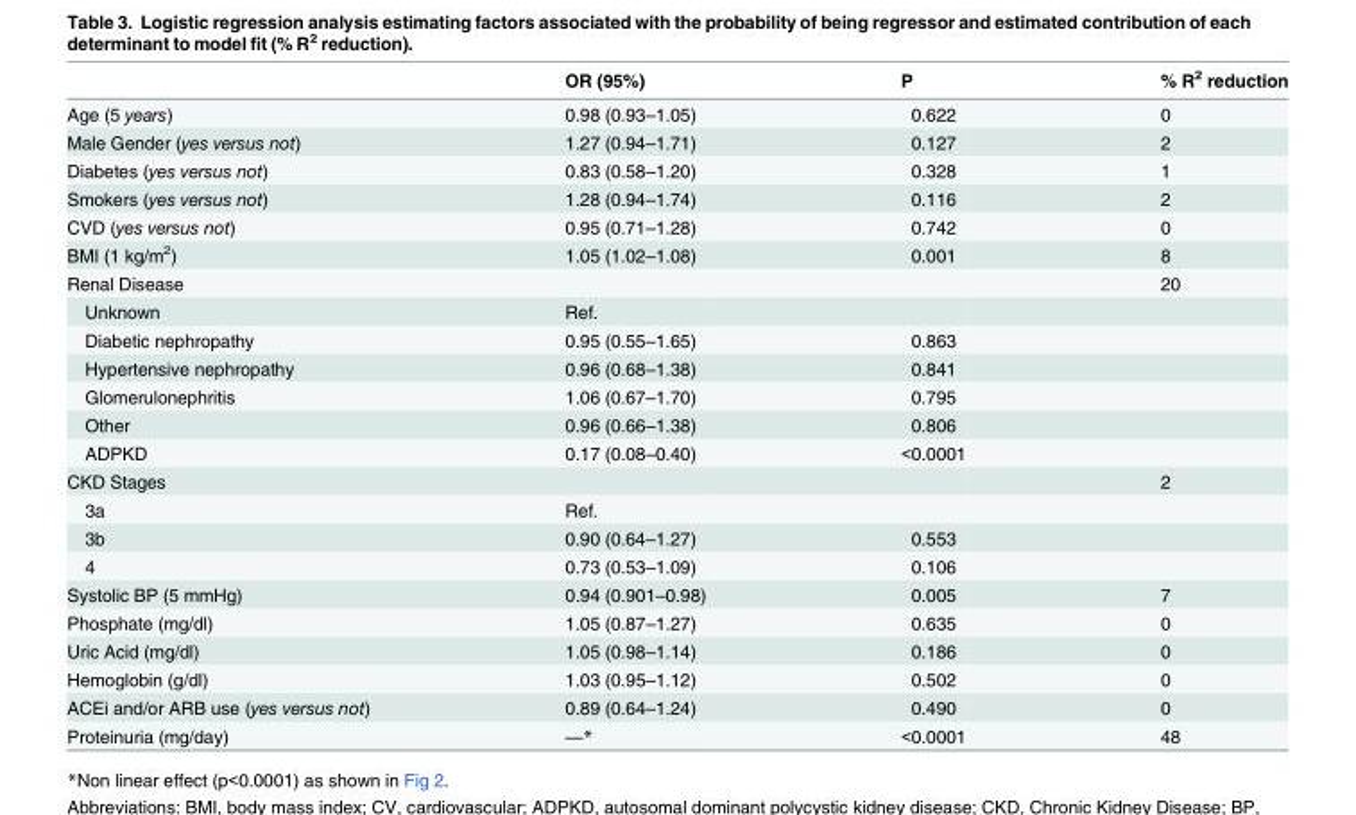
<table><thead><tr><td></td><td>OR (95%)</td><td>P</td><td>% R<sup>2</sup> reduction</td></tr></thead><tbody><tr><td>Age (5 years)</td><td>0.98 (0.93–1.05)</td><td>0.622</td><td>0</td></tr><tr><td>Male Gender (yes versus not)</td><td>1.27 (0.94–1.71)</td><td>0.127</td><td>2</td></tr><tr><td>Diabetes (yes versus not)</td><td>0.83 (0.58–1.20)</td><td>0.328</td><td>1</td></tr><tr><td>Smokers (yes versus not)</td><td>1.28 (0.94–1.74)</td><td>0.116</td><td>2</td></tr><tr><td>CVD (yes versus not)</td><td>0.95 (0.71–1.28)</td><td>0.742</td><td>0</td></tr><tr><td>BMI (1 kg/m<sup>2</sup>)</td><td>1.05 (1.02–1.08)</td><td>0.001</td><td>8</td></tr><tr><td>Renal Disease</td><td></td><td></td><td>20</td></tr><tr><td>Unknown</td><td>Ref.</td><td></td><td></td></tr><tr><td>Diabetic nephropathy</td><td>0.95 (0.55–1.65)</td><td>0.863</td><td></td></tr><tr><td>Hypertensive nephropathy</td><td>0.96 (0.68–1.38)</td><td>0.841</td><td></td></tr><tr><td>Glomerulonephritis</td><td>1.06 (0.67–1.70)</td><td>0.795</td><td></td></tr><tr><td>Other</td><td>0.96 (0.66–1.38)</td><td>0.806</td><td></td></tr><tr><td>ADPKD</td><td>0.17 (0.08–0.40)</td><td>&lt;0.0001</td><td></td></tr><tr><td>CKD Stages</td><td></td><td></td><td>2</td></tr><tr><td>3a</td><td>Ref.</td><td></td><td></td></tr><tr><td>3b</td><td>0.90 (0.64–1.27)</td><td>0.553</td><td></td></tr><tr><td>4</td><td>0.73 (0.53–1.09)</td><td>0.106</td><td></td></tr><tr><td>Systolic BP (5 mmHg)</td><td>0.94 (0.901–0.98)</td><td>0.005</td><td>7</td></tr><tr><td>Phosphate (mg/dl)</td><td>1.05 (0.87–1.27)</td><td>0.635</td><td>0</td></tr><tr><td>Uric Acid (mg/dl)</td><td>1.05 (0.98–1.14)</td><td>0.186</td><td>0</td></tr><tr><td>Hemoglobin (g/dl)</td><td>1.03 (0.95–1.12)</td><td>0.502</td><td>0</td></tr><tr><td>ACEi and/or ARB use (yes versus not)</td><td>0.89 (0.64–1.24)</td><td>0.490</td><td>0</td></tr><tr><td>Proteinuria (mg/day)</td><td>—*</td><td>&lt;0.0001</td><td>48</td></tr></tbody></table>